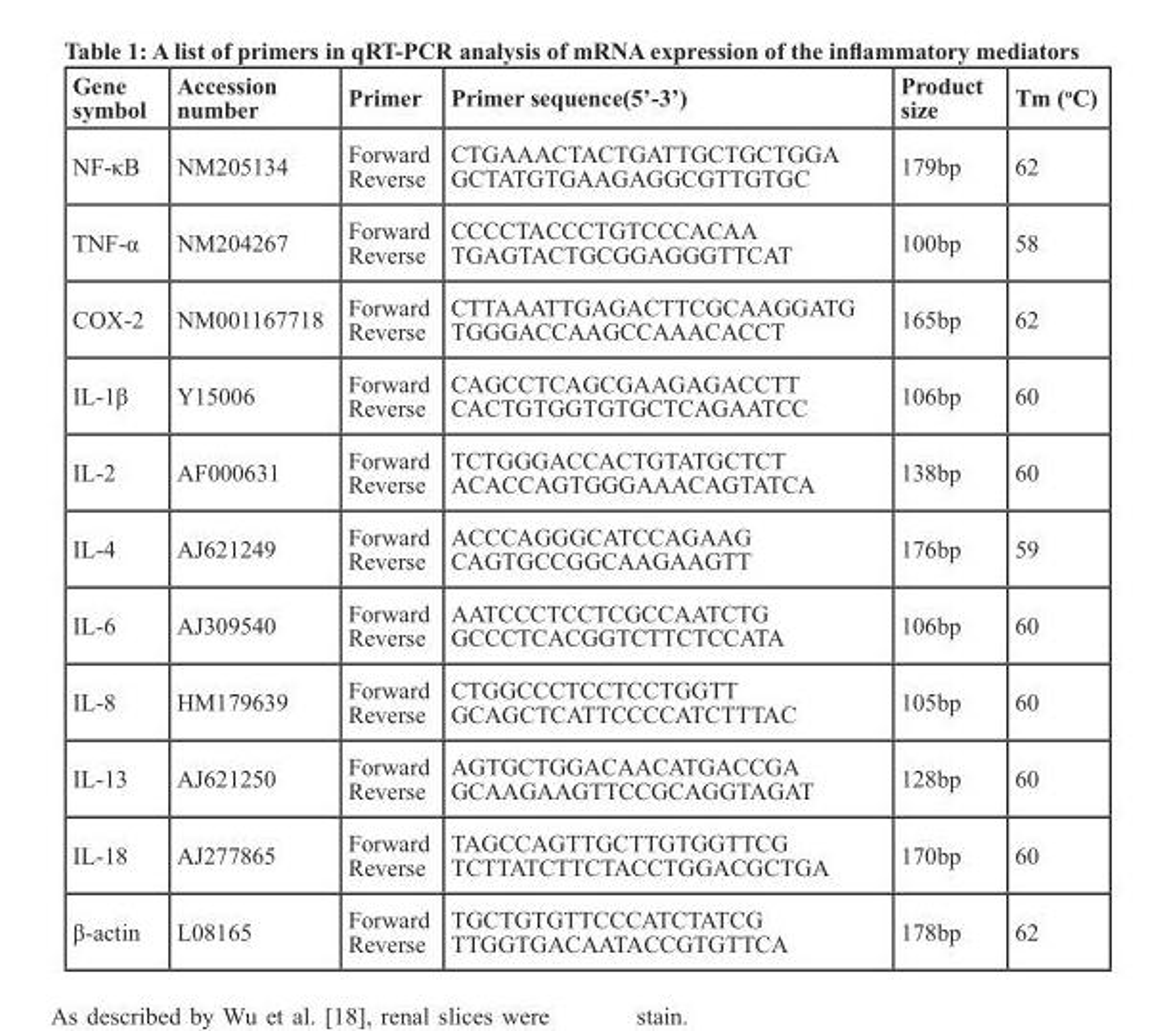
<table><thead><tr><td>Gene symbol</td><td>Accession number</td><td>Primer</td><td>Primer sequence(5’-3’)</td><td>Product size</td><td>Tm (°C)</td></tr></thead><tbody><tr><td>NF-κB</td><td>NM205134</td><td>Forward Reverse</td><td>CTGAAACTACTGATTGCTGCTGGA GCTATGTGAAGAGGCGTTGTGC</td><td>179bp</td><td>62</td></tr><tr><td>TNF-α</td><td>NM204267</td><td>Forward Reverse</td><td>CCCCTACCCTGTCCCACAA TGAGTACTGCGGAGGGTTCAT</td><td>100bp</td><td>58</td></tr><tr><td>COX-2</td><td>NM001167718</td><td>Forward Reverse</td><td>CTTAAATTGAGACTTCGCAAGGATG TGGGACCAAGCCAAACACCT</td><td>165bp</td><td>62</td></tr><tr><td>IL-1β</td><td>Y15006</td><td>Forward Reverse</td><td>CAGCCTCAGCGAAGAGACCTT CACTGTGGTGTGCTCAGAATCC</td><td>106bp</td><td>60</td></tr><tr><td>IL-2</td><td>AF000631</td><td>Forward Reverse</td><td>TCTGGGACCACTGTATGCTCT ACACCAGTGGGAAACAGTATCA</td><td>138bp</td><td>60</td></tr><tr><td>IL-4</td><td>AJ621249</td><td>Forward Reverse</td><td>ACCCAGGGCATCCAGAAG CAGTGCCGGCAAGAAGTT</td><td>176bp</td><td>59</td></tr><tr><td>IL-6</td><td>AJ309540</td><td>Forward Reverse</td><td>AATCCCTCCTCGCCAATCTG GCCCTCACGGTCTTCTCCATA</td><td>106bp</td><td>60</td></tr><tr><td>IL-8</td><td>HM179639</td><td>Forward Reverse</td><td>CTGGCCCTCCTCCTGGTT GCAGCTCATTCCCCATCTTTAC</td><td>105bp</td><td>60</td></tr><tr><td>IL-13</td><td>AJ621250</td><td>Forward Reverse</td><td>AGTGCTGGACAACATGACCGA GCAAGAAGTTCCGCAGGTAGAT</td><td>128bp</td><td>60</td></tr><tr><td>IL-18</td><td>AJ277865</td><td>Forward Reverse</td><td>TAGCCAGTTGCTTGTGGTTCG TCTTATCTTCTACCTGGACGCTGA</td><td>170bp</td><td>60</td></tr><tr><td>β-actin</td><td>L08165</td><td>Forward Reverse</td><td>TGCTGTGTTCCCATCTATCG TTGGTGACAATACCGTGTTCA</td><td>178bp</td><td>62</td></tr></tbody></table>